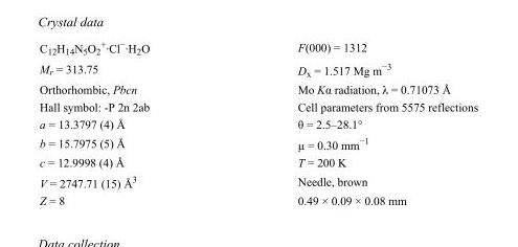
<table><tbody><tr><td>C<sub>12</sub>H<sub>14</sub>N<sub>5</sub>O<sub>2</sub> <sup>+</sup>·Cl<sup>−</sup>·H<sub>2</sub>O</td><td>F(000) = 1312</td></tr><tr><td>M<sub>r</sub> = 313.75</td><td>D<sub>x</sub> = 1.517 Mg m<sup>−3</sup></td></tr><tr><td>Orthorhombic, Pbcn</td><td>Mo Kα radiation, λ = 0.71073 Å</td></tr><tr><td>Hall symbol: -P 2n 2ab</td><td>Cell parameters from 5575 reflections</td></tr><tr><td>a = 13.3797 (4) Å</td><td>θ = 2.5–28.1°</td></tr><tr><td>b = 15.7975 (5) Å</td><td>µ = 0.30 mm<sup>−1</sup></td></tr><tr><td>c = 12.9998 (4) Å</td><td>T = 200 K</td></tr><tr><td>V = 2747.71 (15) Å<sup>3</sup></td><td>Needle, brown</td></tr><tr><td>Z = 8</td><td>0.49 × 0.09 × 0.08 mm</td></tr></tbody></table>